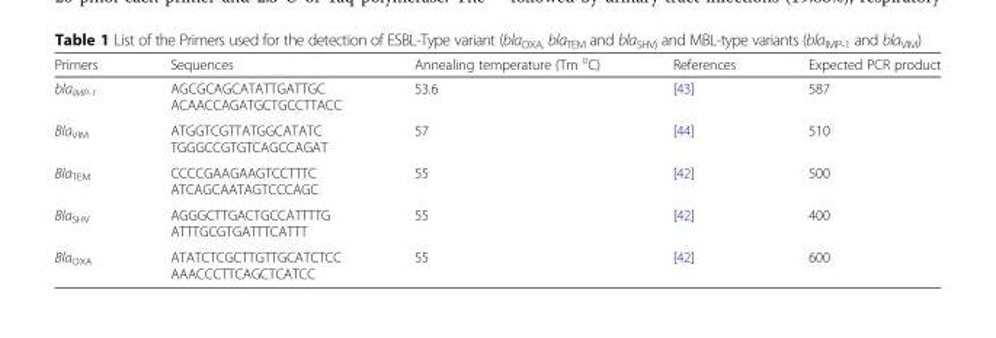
<table><thead><tr><td>Primers</td><td>Sequences</td><td>Annealing temperature (Tm <sup>o</sup>C)</td><td>References</td><td>Expected PCR product</td></tr></thead><tbody><tr><td>bla<sub>IMP-1</sub></td><td>AGCGCAGCATATTGATTGC ACAACCAGATGCTGCCTTACC</td><td>53.6</td><td>[43]</td><td>587</td></tr><tr><td>Bla<sub>VIM</sub></td><td>ATGGTCGTTATGGCATATC TGGGCCGTGTCAGCCAGAT</td><td>57</td><td>[44]</td><td>510</td></tr><tr><td>Bla<sub>TEM</sub></td><td>CCCCGAAGAAGTCCTTTC ATCAGCAATAGTCCCAGC</td><td>55</td><td>[42]</td><td>500</td></tr><tr><td>Bla<sub>SHV</sub></td><td>AGGGCTTGACTGCCATTTTG ATTTGCGTGATTTCATTT</td><td>55</td><td>[42]</td><td>400</td></tr><tr><td>Bla<sub>OXA</sub></td><td>ATATCTCGCTTGTTGCATCTCC AAACCCTTCAGCTCATCC</td><td>55</td><td>[42]</td><td>600</td></tr></tbody></table>